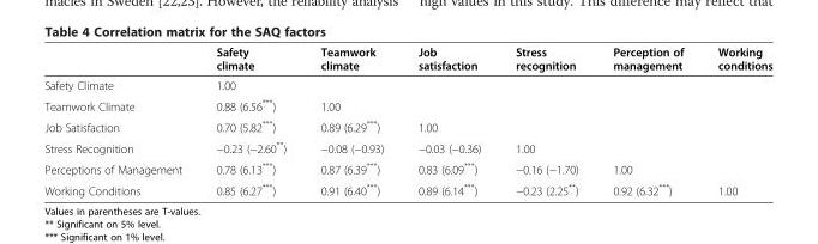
<table><thead><tr><td></td><td>Safety climate</td><td>Teamwork climate</td><td>Job satisfaction</td><td>Stress recognition</td><td>Perception of management</td><td>Working conditions</td></tr></thead><tbody><tr><td>Safety Climate</td><td>1.00</td><td></td><td></td><td></td><td></td><td></td></tr><tr><td>Teamwork Climate</td><td>0.88 (6.56***)</td><td>1.00</td><td></td><td></td><td></td><td></td></tr><tr><td>Job Satisfaction</td><td>0.70 (5.82***)</td><td>0.89 (6.29***)</td><td>1.00</td><td></td><td></td><td></td></tr><tr><td>Stress Recognition</td><td>−0.23 (−2.60**)</td><td>−0.08 (−0.93)</td><td>−0.03 (−0.36)</td><td>1.00</td><td></td><td></td></tr><tr><td>Perceptions of Management</td><td>0.78 (6.13***)</td><td>0.87 (6.39***)</td><td>0.83 (6.09***)</td><td>−0.16 (−1.70)</td><td>1.00</td><td></td></tr><tr><td>Working Conditions</td><td>0.85 (6.27***)</td><td>0.91 (6.40***)</td><td>0.89 (6.14***)</td><td>−0.23 (2.25**)</td><td>0.92 (6.32***)</td><td>1.00</td></tr></tbody></table>